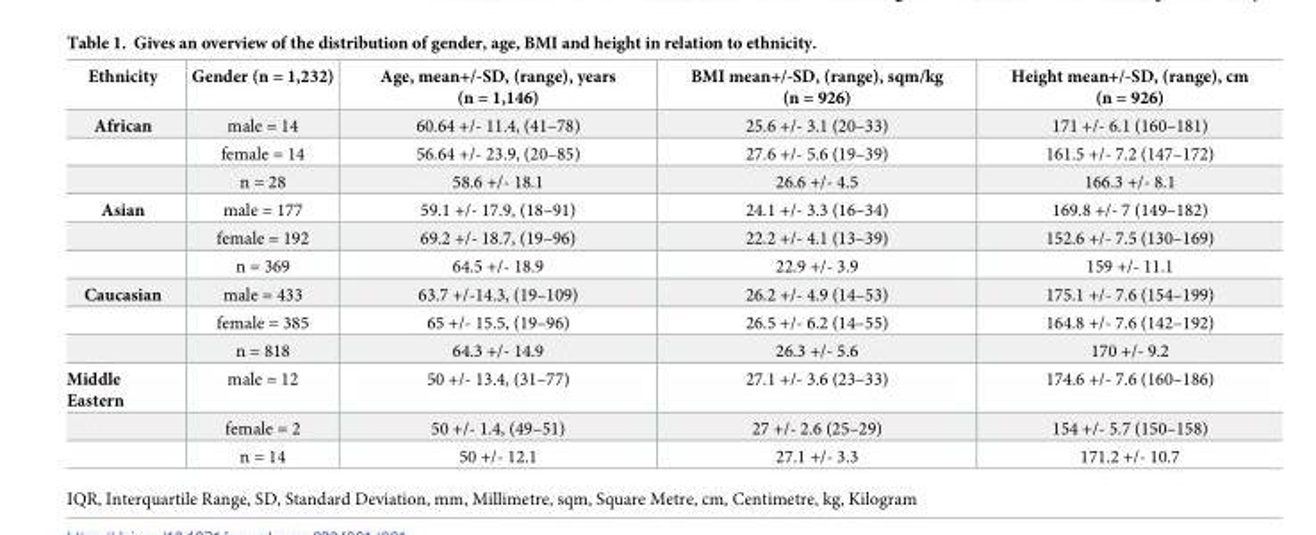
<table><thead><tr><td>Ethnicity</td><td>Gender (n = 1,232)</td><td>Age, mean+/-SD, (range), years (n = 1,146)</td><td>BMI mean+/-SD, (range), sqm/kg (n = 926)</td><td>Height mean+/-SD, (range), cm (n = 926)</td></tr></thead><tbody><tr><td rowspan="3">African</td><td>male = 14</td><td>60.64 +/- 11.4, (41–78)</td><td>25.6 +/- 3.1 (20–33)</td><td>171 +/- 6.1 (160–181)</td></tr><tr><td>female = 14</td><td>56.64 +/- 23.9, (20–85)</td><td>27.6 +/- 5.6 (19–39)</td><td>161.5 +/- 7.2 (147–172)</td></tr><tr><td>n = 28</td><td>58.6 +/- 18.1</td><td>26.6 +/- 4.5</td><td>166.3 +/- 8.1</td></tr><tr><td rowspan="3">Asian</td><td>male = 177</td><td>59.1 +/- 17.9, (18–91)</td><td>24.1 +/- 3.3 (16–34)</td><td>169.8 +/- 7 (149–182)</td></tr><tr><td>female = 192</td><td>69.2 +/- 18.7, (19–96)</td><td>22.2 +/- 4.1 (13–39)</td><td>152.6 +/- 7.5 (130–169)</td></tr><tr><td>n = 369</td><td>64.5 +/- 18.9</td><td>22.9 +/- 3.9</td><td>159 +/- 11.1</td></tr><tr><td rowspan="3">Caucasian</td><td>male = 433</td><td>63.7 +/-14.3, (19–109)</td><td>26.2 +/- 4.9 (14–53)</td><td>175.1 +/- 7.6 (154–199)</td></tr><tr><td>female = 385</td><td>65 +/- 15.5, (19–96)</td><td>26.5 +/- 6.2 (14–55)</td><td>164.8 +/- 7.6 (142–192)</td></tr><tr><td>n = 818</td><td>64.3 +/- 14.9</td><td>26.3 +/- 5.6</td><td>170 +/- 9.2</td></tr><tr><td rowspan="3">Middle Eastern</td><td>male = 12</td><td>50 +/- 13.4, (31–77)</td><td>27.1 +/- 3.6 (23–33)</td><td>174.6 +/- 7.6 (160–186)</td></tr><tr><td>female = 2</td><td>50 +/- 1.4, (49–51)</td><td>27 +/- 2.6 (25–29)</td><td>154 +/- 5.7 (150–158)</td></tr><tr><td>n = 14</td><td>50 +/- 12.1</td><td>27.1 +/- 3.3</td><td>171.2 +/- 10.7</td></tr></tbody></table>